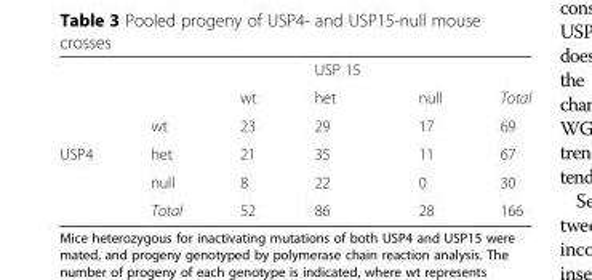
<table><thead><tr><td></td><td></td><td></td><td>USP 15</td><td></td><td></td></tr></thead><tbody><tr><td></td><td></td><td>wt</td><td>het</td><td>null</td><td>Total</td></tr><tr><td></td><td>wt</td><td>23</td><td>29</td><td>17</td><td>69</td></tr><tr><td rowspan="3">USP4</td><td>het</td><td>21</td><td>35</td><td>11</td><td>67</td></tr><tr><td>null</td><td>8</td><td>22</td><td>0</td><td>30</td></tr><tr><td>Total</td><td>52</td><td>86</td><td>28</td><td>166</td></tr></tbody></table>